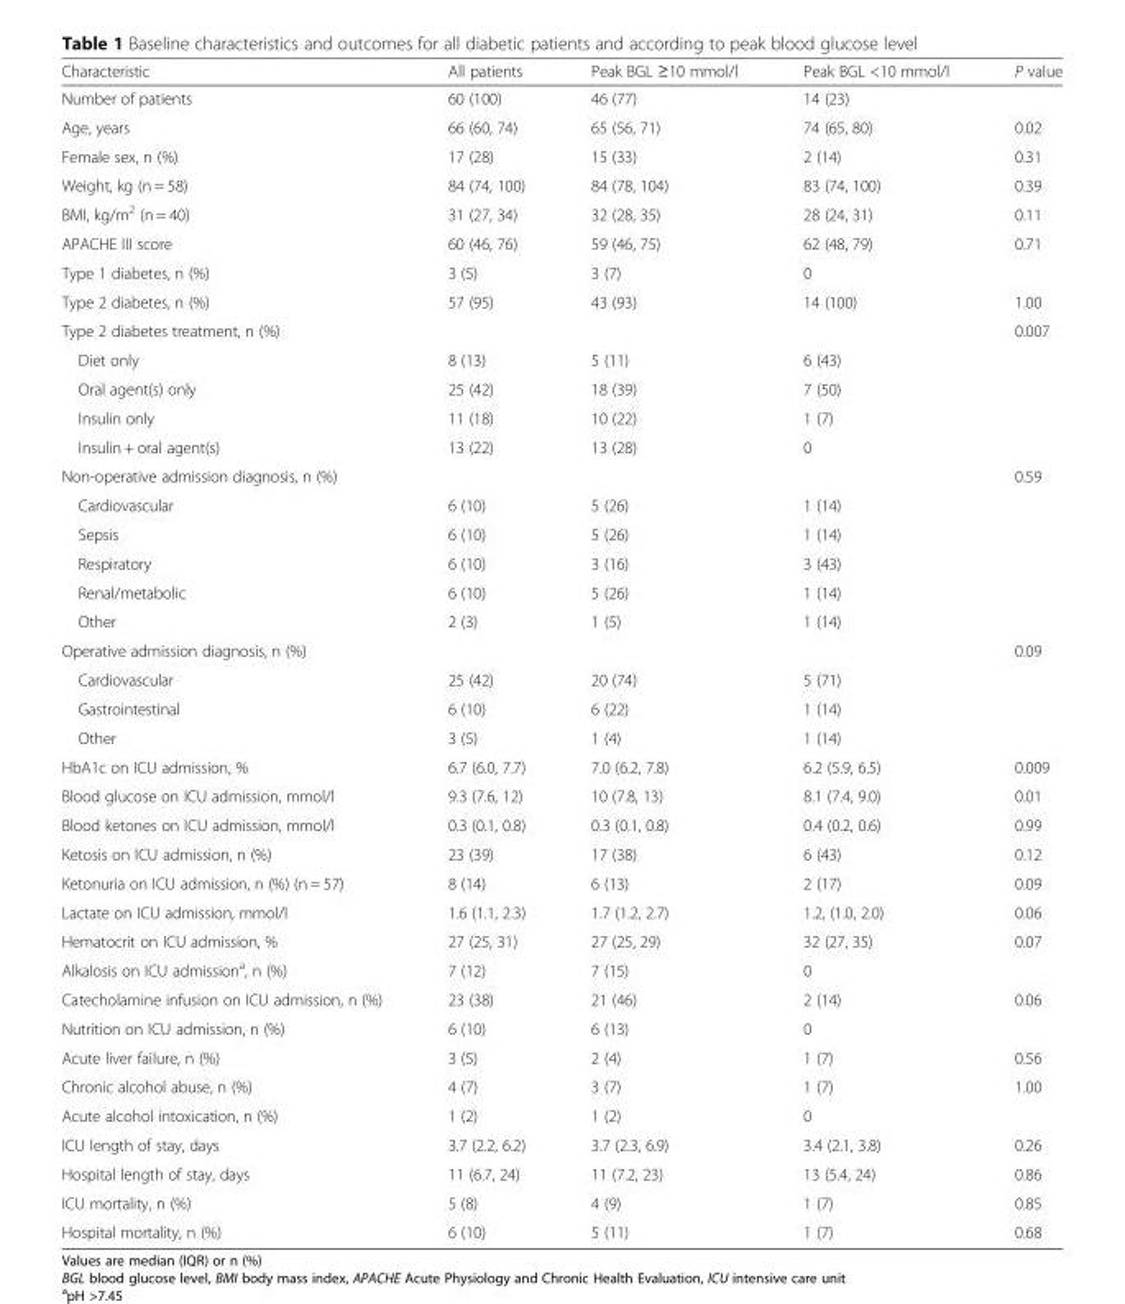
<table><thead><tr><td>Characteristic</td><td>All patients</td><td>Peak BGL ≥10 mmol/l</td><td>Peak BGL &lt;10 mmol/l</td><td>P value</td></tr></thead><tbody><tr><td>Number of patients</td><td>60 (100)</td><td>46 (77)</td><td>14 (23)</td><td></td></tr><tr><td>Age, years</td><td>66 (60, 74)</td><td>65 (56, 71)</td><td>74 (65, 80)</td><td>0.02</td></tr><tr><td>Female sex, n (%)</td><td>17 (28)</td><td>15 (33)</td><td>2 (14)</td><td>0.31</td></tr><tr><td>Weight, kg (n = 58)</td><td>84 (74, 100)</td><td>84 (78, 104)</td><td>83 (74, 100)</td><td>0.39</td></tr><tr><td>BMI, kg/m<sup>2</sup> (n = 40)</td><td>31 (27, 34)</td><td>32 (28, 35)</td><td>28 (24, 31)</td><td>0.11</td></tr><tr><td>APACHE III score</td><td>60 (46, 76)</td><td>59 (46, 75)</td><td>62 (48, 79)</td><td>0.71</td></tr><tr><td>Type 1 diabetes, n (%)</td><td>3 (5)</td><td>3 (7)</td><td>0</td><td></td></tr><tr><td>Type 2 diabetes, n (%)</td><td>57 (95)</td><td>43 (93)</td><td>14 (100)</td><td>1.00</td></tr><tr><td>Type 2 diabetes treatment, n (%)</td><td></td><td></td><td></td><td>0.007</td></tr><tr><td>Diet only</td><td>8 (13)</td><td>5 (11)</td><td>6 (43)</td><td></td></tr><tr><td>Oral agent(s) only</td><td>25 (42)</td><td>18 (39)</td><td>7 (50)</td><td></td></tr><tr><td>Insulin only</td><td>11 (18)</td><td>10 (22)</td><td>1 (7)</td><td></td></tr><tr><td>Insulin + oral agent(s)</td><td>13 (22)</td><td>13 (28)</td><td>0</td><td></td></tr><tr><td>Non-operative admission diagnosis, n (%)</td><td></td><td></td><td></td><td>0.59</td></tr><tr><td>Cardiovascular</td><td>6 (10)</td><td>5 (26)</td><td>1 (14)</td><td></td></tr><tr><td>Sepsis</td><td>6 (10)</td><td>5 (26)</td><td>1 (14)</td><td></td></tr><tr><td>Respiratory</td><td>6 (10)</td><td>3 (16)</td><td>3 (43)</td><td></td></tr><tr><td>Renal/metabolic</td><td>6 (10)</td><td>5 (26)</td><td>1 (14)</td><td></td></tr><tr><td>Other</td><td>2 (3)</td><td>1 (5)</td><td>1 (14)</td><td></td></tr><tr><td>Operative admission diagnosis, n (%)</td><td></td><td></td><td></td><td>0.09</td></tr><tr><td>Cardiovascular</td><td>25 (42)</td><td>20 (74)</td><td>5 (71)</td><td></td></tr><tr><td>Gastrointestinal</td><td>6 (10)</td><td>6 (22)</td><td>1 (14)</td><td></td></tr><tr><td>Other</td><td>3 (5)</td><td>1 (4)</td><td>1 (14)</td><td></td></tr><tr><td>HbA1c on ICU admission, %</td><td>6.7 (6.0, 7.7)</td><td>7.0 (6.2, 7.8)</td><td>6.2 (5.9, 6.5)</td><td>0.009</td></tr><tr><td>Blood glucose on ICU admission, mmol/l</td><td>9.3 (7.6, 12)</td><td>10 (7.8, 13)</td><td>8.1 (7.4, 9.0)</td><td>0.01</td></tr><tr><td>Blood ketones on ICU admission, mmol/l</td><td>0.3 (0.1, 0.8)</td><td>0.3 (0.1, 0.8)</td><td>0.4 (0.2, 0.6)</td><td>0.99</td></tr><tr><td>Ketosis on ICU admission, n (%)</td><td>23 (39)</td><td>17 (38)</td><td>6 (43)</td><td>0.12</td></tr><tr><td>Ketonuria on ICU admission, n (%) (n = 57)</td><td>8 (14)</td><td>6 (13)</td><td>2 (17)</td><td>0.09</td></tr><tr><td>Lactate on ICU admission, mmol/l</td><td>1.6 (1.1, 2.3)</td><td>1.7 (1.2, 2.7)</td><td>1.2, (1.0, 2.0)</td><td>0.06</td></tr><tr><td>Hematocrit on ICU admission, %</td><td>27 (25, 31)</td><td>27 (25, 29)</td><td>32 (27, 35)</td><td>0.07</td></tr><tr><td>Alkalosis on ICU admission<sup>a</sup>, n (%)</td><td>7 (12)</td><td>7 (15)</td><td>0</td><td></td></tr><tr><td>Catecholamine infusion on ICU admission, n (%)</td><td>23 (38)</td><td>21 (46)</td><td>2 (14)</td><td>0.06</td></tr><tr><td>Nutrition on ICU admission, n (%)</td><td>6 (10)</td><td>6 (13)</td><td>0</td><td></td></tr><tr><td>Acute liver failure, n (%)</td><td>3 (5)</td><td>2 (4)</td><td>1 (7)</td><td>0.56</td></tr><tr><td>Chronic alcohol abuse, n (%)</td><td>4 (7)</td><td>3 (7)</td><td>1 (7)</td><td>1.00</td></tr><tr><td>Acute alcohol intoxication, n (%)</td><td>1 (2)</td><td>1 (2)</td><td>0</td><td></td></tr><tr><td>ICU length of stay, days</td><td>3.7 (2.2, 6.2)</td><td>3.7 (2.3, 6.9)</td><td>3.4 (2.1, 3.8)</td><td>0.26</td></tr><tr><td>Hospital length of stay, days</td><td>11 (6.7, 24)</td><td>11 (7.2, 23)</td><td>13 (5.4, 24)</td><td>0.86</td></tr><tr><td>ICU mortality, n (%)</td><td>5 (8)</td><td>4 (9)</td><td>1 (7)</td><td>0.85</td></tr><tr><td>Hospital mortality, n (%)</td><td>6 (10)</td><td>5 (11)</td><td>1 (7)</td><td>0.68</td></tr></tbody></table>